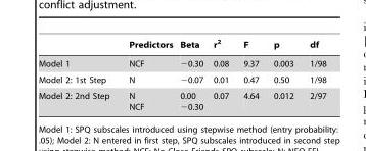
<table><thead><tr><td></td><td>Predictors</td><td>Beta</td><td>r<sup>2</sup></td><td>F</td><td>p</td><td>df</td></tr></thead><tbody><tr><td>Model 1</td><td>NCF</td><td>−0.30</td><td>0.08</td><td>9.37</td><td>0.003</td><td>1/98</td></tr><tr><td>Model 2: 1st Step</td><td>N</td><td>−0.07</td><td>0.01</td><td>0.47</td><td>0.50</td><td>1/98</td></tr><tr><td>Model 2: 2nd Step</td><td>N NCF</td><td>0.00 −0.30</td><td>0.07</td><td>4.64</td><td>0.012</td><td>2/97</td></tr></tbody></table>